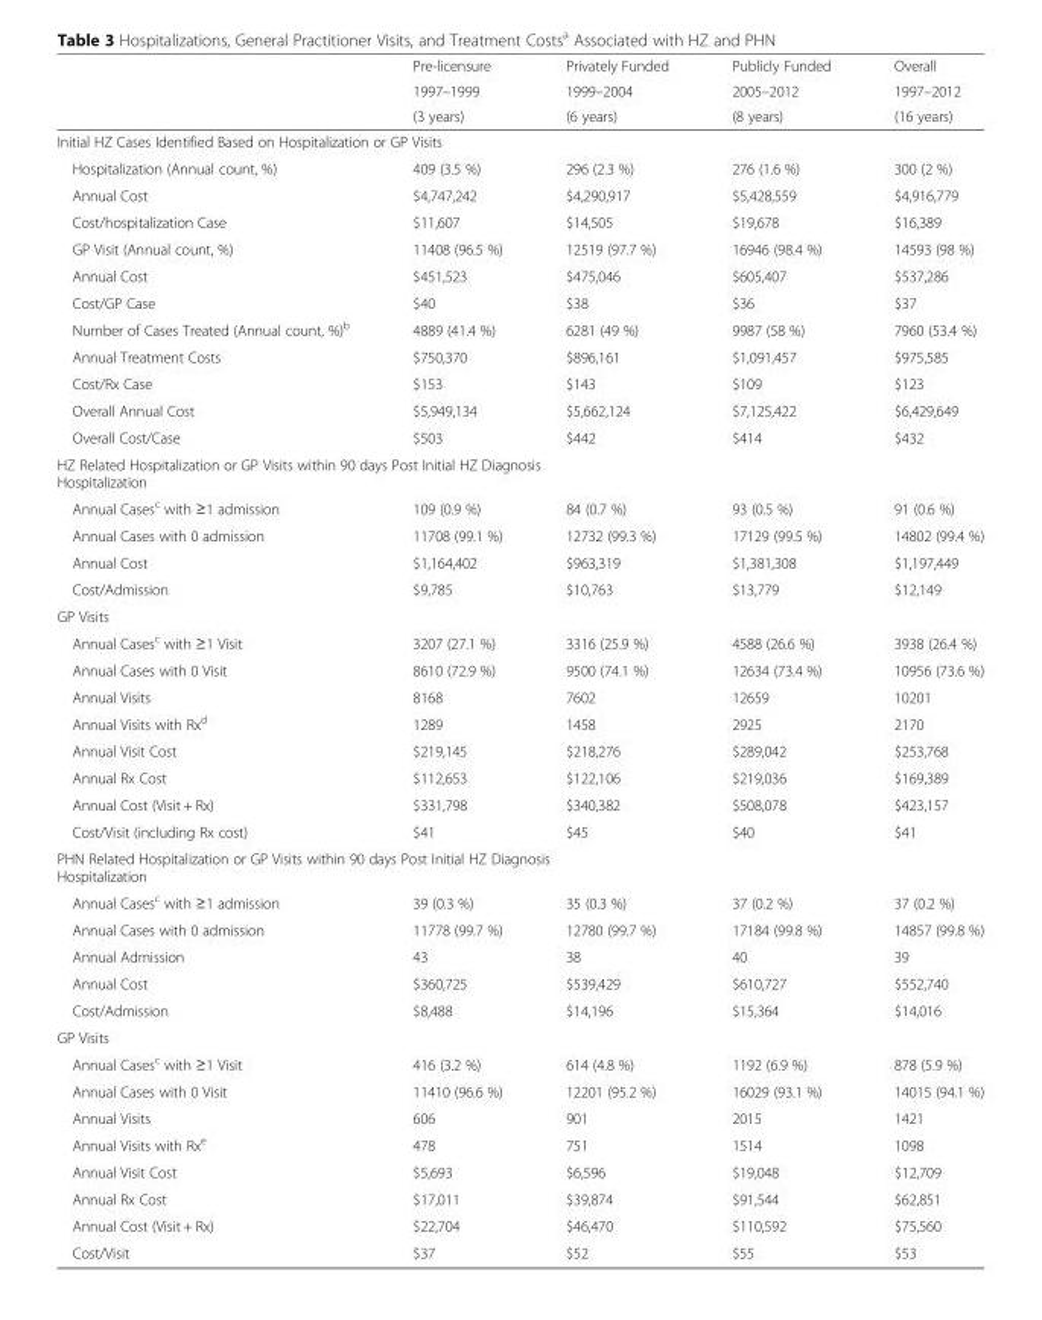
<table><thead><tr><td rowspan="3"></td><td rowspan="3">Pre-licensure 1997–1999 (3 years)</td><td rowspan="3">Privately Funded 1999–2004 (6 years)</td><td rowspan="3">Publicly Funded 2005–2012 (8 years)</td><td rowspan="3">Overall 1997–2012 (16 years)</td></tr><tr></tr><tr></tr></thead><tbody><tr><td colspan="5">Initial HZ Cases Identified Based on Hospitalization or GP Visits</td></tr><tr><td>Hospitalization (Annual count, %)</td><td>409 (3.5 %)</td><td>296 (2.3 %)</td><td>276 (1.6 %)</td><td>300 (2 %)</td></tr><tr><td>Annual Cost</td><td>$4,747,242</td><td>$4,290,917</td><td>$5,428,559</td><td>$4,916,779</td></tr><tr><td>Cost/hospitalization Case</td><td>$11,607</td><td>$14,505</td><td>$19,678</td><td>$16,389</td></tr><tr><td>GP Visit (Annual count, %)</td><td>11408 (96.5 %)</td><td>12519 (97.7 %)</td><td>16946 (98.4 %)</td><td>14593 (98 %)</td></tr><tr><td>Annual Cost</td><td>$451,523</td><td>$475,046</td><td>$605,407</td><td>$537,286</td></tr><tr><td>Cost/GP Case</td><td>$40</td><td>$38</td><td>$36</td><td>$37</td></tr><tr><td>Number of Cases Treated (Annual count, %)<sup>b</sup></td><td>4889 (41.4 %)</td><td>6281 (49 %)</td><td>9987 (58 %)</td><td>7960 (53.4 %)</td></tr><tr><td>Annual Treatment Costs</td><td>$750,370</td><td>$896,161</td><td>$1,091,457</td><td>$975,585</td></tr><tr><td>Cost/Rx Case</td><td>$153</td><td>$143</td><td>$109</td><td>$123</td></tr><tr><td>Overall Annual Cost</td><td>$5,949,134</td><td>$5,662,124</td><td>$7,125,422</td><td>$6,429,649</td></tr><tr><td>Overall Cost/Case</td><td>$503</td><td>$442</td><td>$414</td><td>$432</td></tr><tr><td colspan="5">HZ Related Hospitalization or GP Visits within 90 days Post Initial HZ Diagnosis Hospitalization</td></tr><tr><td>Annual Cases<sup>c</sup> with ≥1 admission</td><td>109 (0.9 %)</td><td>84 (0.7 %)</td><td>93 (0.5 %)</td><td>91 (0.6 %)</td></tr><tr><td>Annual Cases with 0 admission</td><td>11708 (99.1 %)</td><td>12732 (99.3 %)</td><td>17129 (99.5 %)</td><td>14802 (99.4 %)</td></tr><tr><td>Annual Cost</td><td>$1,164,402</td><td>$963,319</td><td>$1,381,308</td><td>$1,197,449</td></tr><tr><td>Cost/Admission</td><td>$9,785</td><td>$10,763</td><td>$13,779</td><td>$12,149</td></tr><tr><td colspan="5">GP Visits</td></tr><tr><td>Annual Cases<sup>c</sup> with ≥1 Visit</td><td>3207 (27.1 %)</td><td>3316 (25.9 %)</td><td>4588 (26.6 %)</td><td>3938 (26.4 %)</td></tr><tr><td>Annual Cases with 0 Visit</td><td>8610 (72.9 %)</td><td>9500 (74.1 %)</td><td>12634 (73.4 %)</td><td>10956 (73.6 %)</td></tr><tr><td>Annual Visits</td><td>8168</td><td>7602</td><td>12659</td><td>10201</td></tr><tr><td>Annual Visits with Rx<sup>d</sup></td><td>1289</td><td>1458</td><td>2925</td><td>2170</td></tr><tr><td>Annual Visit Cost</td><td>$219,145</td><td>$218,276</td><td>$289,042</td><td>$253,768</td></tr><tr><td>Annual Rx Cost</td><td>$112,653</td><td>$122,106</td><td>$219,036</td><td>$169,389</td></tr><tr><td>Annual Cost (Visit + Rx)</td><td>$331,798</td><td>$340,382</td><td>$508,078</td><td>$423,157</td></tr><tr><td>Cost/Visit (including Rx cost)</td><td>$41</td><td>$45</td><td>$40</td><td>$41</td></tr><tr><td colspan="5">PHN Related Hospitalization or GP Visits within 90 days Post Initial HZ Diagnosis Hospitalization</td></tr><tr><td>Annual Cases<sup>c</sup> with ≥1 admission</td><td>39 (0.3 %)</td><td>35 (0.3 %)</td><td>37 (0.2 %)</td><td>37 (0.2 %)</td></tr><tr><td>Annual Cases with 0 admission</td><td>11778 (99.7 %)</td><td>12780 (99.7 %)</td><td>17184 (99.8 %)</td><td>14857 (99.8 %)</td></tr><tr><td>Annual Admission</td><td>43</td><td>38</td><td>40</td><td>39</td></tr><tr><td>Annual Cost</td><td>$360,725</td><td>$539,429</td><td>$610,727</td><td>$552,740</td></tr><tr><td>Cost/Admission</td><td>$8,488</td><td>$14,196</td><td>$15,364</td><td>$14,016</td></tr><tr><td colspan="5">GP Visits</td></tr><tr><td>Annual Cases<sup>c</sup> with ≥1 Visit</td><td>416 (3.2 %)</td><td>614 (4.8 %)</td><td>1192 (6.9 %)</td><td>878 (5.9 %)</td></tr><tr><td>Annual Cases with 0 Visit</td><td>11410 (96.6 %)</td><td>12201 (95.2 %)</td><td>16029 (93.1 %)</td><td>14015 (94.1 %)</td></tr><tr><td>Annual Visits</td><td>606</td><td>901</td><td>2015</td><td>1421</td></tr><tr><td>Annual Visits with Rx<sup>e</sup></td><td>478</td><td>751</td><td>1514</td><td>1098</td></tr><tr><td>Annual Visit Cost</td><td>$5,693</td><td>$6,596</td><td>$19,048</td><td>$12,709</td></tr><tr><td>Annual Rx Cost</td><td>$17,011</td><td>$39,874</td><td>$91,544</td><td>$62,851</td></tr><tr><td>Annual Cost (Visit + Rx)</td><td>$22,704</td><td>$46,470</td><td>$110,592</td><td>$75,560</td></tr><tr><td>Cost/Visit</td><td>$37</td><td>$52</td><td>$55</td><td>$53</td></tr></tbody></table>